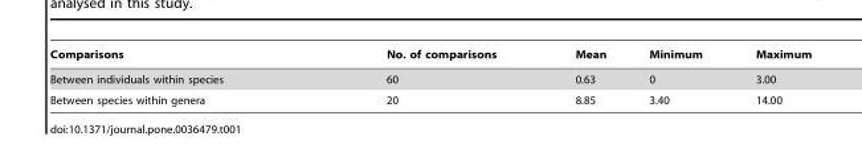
<table><thead><tr><td>Comparisons</td><td>No. of comparisons</td><td>Mean</td><td>Minimum</td><td>Maximum</td></tr></thead><tbody><tr><td>Between individuals within species</td><td>60</td><td>0.63</td><td>0</td><td>3.00</td></tr><tr><td>Between species within genera</td><td>20</td><td>8.85</td><td>3.40</td><td>14.00</td></tr></tbody></table>